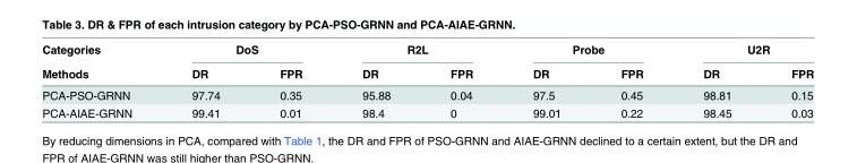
<table><thead><tr><td rowspan="2">Categories Methods</td><td colspan="2">DoS</td><td colspan="2">R2L</td><td colspan="2">Probe</td><td colspan="2">U2R</td></tr><tr><td>DR</td><td>FPR</td><td>DR</td><td>FPR</td><td>DR</td><td>FPR</td><td>DR</td><td>FPR</td></tr></thead><tbody><tr><td>PCA-PSO-GRNN</td><td>97.74</td><td>0.35</td><td>95.88</td><td>0.04</td><td>97.5</td><td>0.45</td><td>98.81</td><td>0.15</td></tr><tr><td>PCA-AIAE-GRNN</td><td>99.41</td><td>0.01</td><td>98.4</td><td>0</td><td>99.01</td><td>0.22</td><td>98.45</td><td>0.03</td></tr></tbody></table>